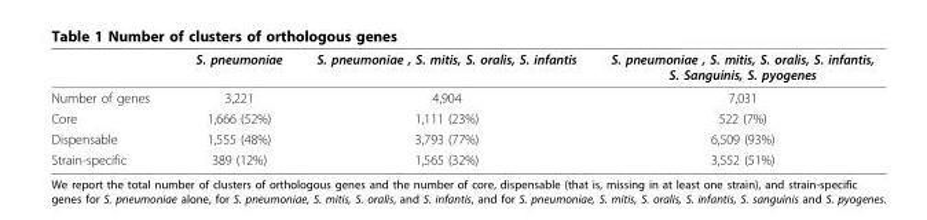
<table><thead><tr><td></td><td>S. pneumoniae</td><td>S. pneumoniae , S. mitis, S. oralis, S. infantis</td><td>S. pneumoniae , S. mitis, S. oralis, S. infantis, S. Sanguinis, S. pyogenes</td></tr></thead><tbody><tr><td>Number of genes</td><td>3,221</td><td>4,904</td><td>7,031</td></tr><tr><td>Core</td><td>1,666 (52%)</td><td>1,111 (23%)</td><td>522 (7%)</td></tr><tr><td>Dispensable</td><td>1,555 (48%)</td><td>3,793 (77%)</td><td>6,509 (93%)</td></tr><tr><td>Strain-specific</td><td>389 (12%)</td><td>1,565 (32%)</td><td>3,552 (51%)</td></tr></tbody></table>